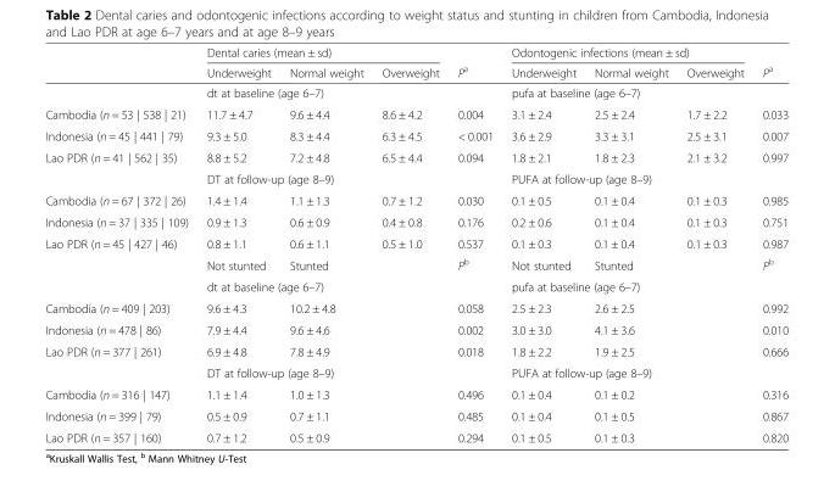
<table><thead><tr><td rowspan="2"></td><td colspan="3">Dental caries (mean ± sd)</td><td rowspan="2">P<sup>a</sup></td><td colspan="3">Odontogenic infections (mean ± sd)</td><td rowspan="2">P<sup>a</sup></td></tr><tr><td>Underweight</td><td>Normal weight</td><td>Overweight</td><td>Underweight</td><td>Normal weight</td><td>Overweight</td></tr></thead><tbody><tr><td></td><td colspan="3">dt at baseline (age 6–7)</td><td></td><td colspan="3">pufa at baseline (age 6–7)</td><td></td></tr><tr><td>Cambodia (n = 53 | 538 | 21)</td><td>11.7 ± 4.7</td><td>9.6 ± 4.4</td><td>8.6 ± 4.2</td><td>0.004</td><td>3.1 ± 2.4</td><td>2.5 ± 2.4</td><td>1.7 ± 2.2</td><td>0.033</td></tr><tr><td>Indonesia (n = 45 | 441 | 79)</td><td>9.3 ± 5.0</td><td>8.3 ± 4.4</td><td>6.3 ± 4.5</td><td>&lt; 0.001</td><td>3.6 ± 2.9</td><td>3.3 ± 3.1</td><td>2.5 ± 3.1</td><td>0.007</td></tr><tr><td rowspan="2">Lao PDR (n = 41 | 562 | 35)</td><td>8.8 ± 5.2</td><td>7.2 ± 4.8</td><td>6.5 ± 4.4</td><td>0.094</td><td>1.8 ± 2.1</td><td>1.8 ± 2.3</td><td>2.1 ± 3.2</td><td>0.997</td></tr><tr><td colspan="3">DT at follow-up (age 8–9)</td><td></td><td colspan="3">PUFA at follow-up (age 8–9)</td><td></td></tr><tr><td>Cambodia (n = 67 | 372 | 26)</td><td>1.4 ± 1.4</td><td>1.1 ± 1.3</td><td>0.7 ± 1.2</td><td>0.030</td><td>0.1 ± 0.5</td><td>0.1 ± 0.4</td><td>0.1 ± 0.3</td><td>0.985</td></tr><tr><td>Indonesia (n = 37 | 335 | 109)</td><td>0.9 ± 1.3</td><td>0.6 ± 0.9</td><td>0.4 ± 0.8</td><td>0.176</td><td>0.2 ± 0.6</td><td>0.1 ± 0.4</td><td>0.1 ± 0.3</td><td>0.751</td></tr><tr><td rowspan="3">Lao PDR (n = 45 | 427 | 46)</td><td>0.8 ± 1.1</td><td>0.6 ± 1.1</td><td>0.5 ± 1.0</td><td>0.537</td><td>0.1 ± 0.3</td><td>0.1 ± 0.4</td><td>0.1 ± 0.3</td><td>0.987</td></tr><tr><td>Not stunted</td><td colspan="2">Stunted</td><td>P<sup>b</sup></td><td>Not stunted</td><td colspan="2">Stunted</td><td>P<sup>b</sup></td></tr><tr><td colspan="3">dt at baseline (age 6–7)</td><td></td><td colspan="3">pufa at baseline (age 6–7)</td><td></td></tr><tr><td>Cambodia (n = 409 | 203)</td><td>9.6 ± 4.3</td><td colspan="2">10.2 ± 4.8</td><td>0.058</td><td>2.5 ± 2.3</td><td colspan="2">2.6 ± 2.5</td><td>0.992</td></tr><tr><td>Indonesia (n = 478 | 86)</td><td>7.9 ± 4.4</td><td colspan="2">9.6 ± 4.6</td><td>0.002</td><td>3.0 ± 3.0</td><td colspan="2">4.1 ± 3.6</td><td>0.010</td></tr><tr><td rowspan="2">Lao PDR (n = 377 | 261)</td><td>6.9 ± 4.8</td><td colspan="2">7.8 ± 4.9</td><td>0.018</td><td>1.8 ± 2.2</td><td colspan="2">1.9 ± 2.5</td><td>0.666</td></tr><tr><td colspan="3">DT at follow-up (age 8–9)</td><td></td><td colspan="3">PUFA at follow-up (age 8–9)</td><td></td></tr><tr><td>Cambodia (n = 316 | 147)</td><td>1.1 ± 1.4</td><td colspan="2">1.0 ± 1.3</td><td>0.496</td><td>0.1 ± 0.4</td><td colspan="2">0.1 ± 0.2</td><td>0.316</td></tr><tr><td>Indonesia (n = 399 | 79)</td><td>0.5 ± 0.9</td><td colspan="2">0.7 ± 1.1</td><td>0.485</td><td>0.1 ± 0.4</td><td colspan="2">0.1 ± 0.5</td><td>0.867</td></tr><tr><td>Lao PDR (n = 357 | 160)</td><td>0.7 ± 1.2</td><td colspan="2">0.5 ± 0.9</td><td>0.294</td><td>0.1 ± 0.5</td><td colspan="2">0.1 ± 0.3</td><td>0.820</td></tr></tbody></table>